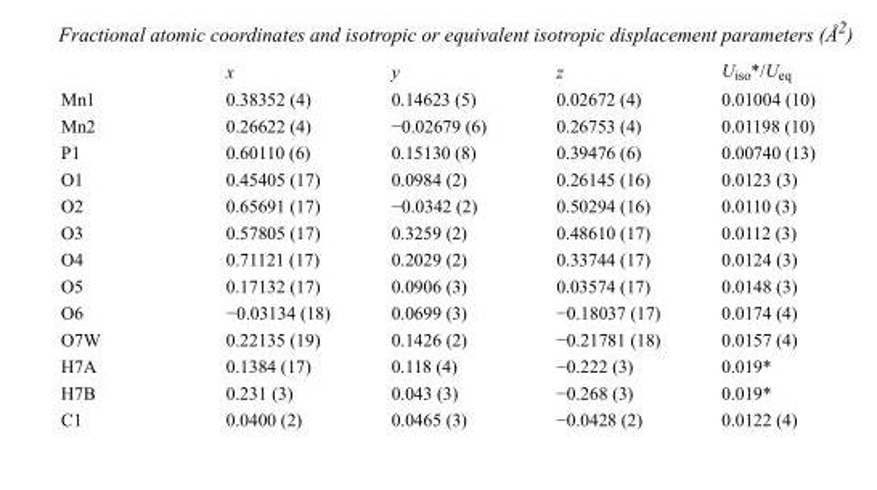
<table><thead><tr><td></td><td>x</td><td>y</td><td>z</td><td>U<sub>iso</sub>*/U<sub>eq</sub></td></tr></thead><tbody><tr><td>Mn1</td><td>0.38352 (4)</td><td>0.14623 (5)</td><td>0.02672 (4)</td><td>0.01004 (10)</td></tr><tr><td>Mn2</td><td>0.26622 (4)</td><td>−0.02679 (6)</td><td>0.26753 (4)</td><td>0.01198 (10)</td></tr><tr><td>P1</td><td>0.60110 (6)</td><td>0.15130 (8)</td><td>0.39476 (6)</td><td>0.00740 (13)</td></tr><tr><td>O1</td><td>0.45405 (17)</td><td>0.0984 (2)</td><td>0.26145 (16)</td><td>0.0123 (3)</td></tr><tr><td>O2</td><td>0.65691 (17)</td><td>−0.0342 (2)</td><td>0.50294 (16)</td><td>0.0110 (3)</td></tr><tr><td>O3</td><td>0.57805 (17)</td><td>0.3259 (2)</td><td>0.48610 (17)</td><td>0.0112 (3)</td></tr><tr><td>O4</td><td>0.71121 (17)</td><td>0.2029 (2)</td><td>0.33744 (17)</td><td>0.0124 (3)</td></tr><tr><td>O5</td><td>0.17132 (17)</td><td>0.0906 (3)</td><td>0.03574 (17)</td><td>0.0148 (3)</td></tr><tr><td>O6</td><td>−0.03134 (18)</td><td>0.0699 (3)</td><td>−0.18037 (17)</td><td>0.0174 (4)</td></tr><tr><td>O7W</td><td>0.22135 (19)</td><td>0.1426 (2)</td><td>−0.21781 (18)</td><td>0.0157 (4)</td></tr><tr><td>H7A</td><td>0.1384 (17)</td><td>0.118 (4)</td><td>−0.222 (3)</td><td>0.019*</td></tr><tr><td>H7B</td><td>0.231 (3)</td><td>0.043 (3)</td><td>−0.268 (3)</td><td>0.019*</td></tr><tr><td>C1</td><td>0.0400 (2)</td><td>0.0465 (3)</td><td>−0.0428 (2)</td><td>0.0122 (4)</td></tr></tbody></table>